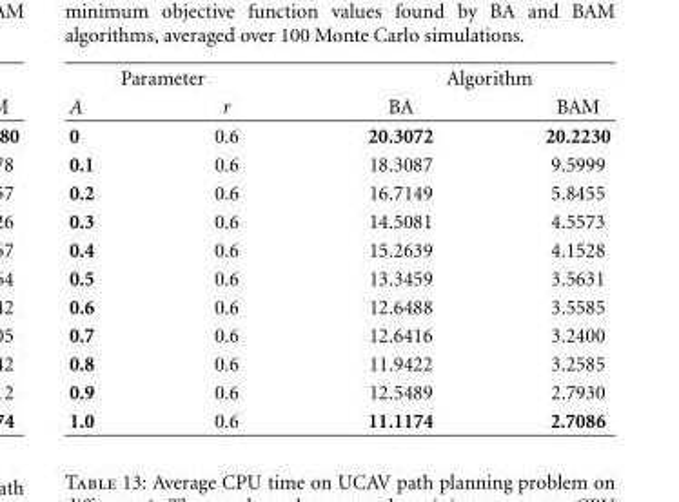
<table><thead><tr><td colspan="2">Parameter</td><td colspan="2">Algorithm</td></tr><tr><td>A</td><td>r</td><td>BA</td><td>BAM</td></tr></thead><tbody><tr><td>0</td><td>0.6</td><td>20.3072</td><td>20.2230</td></tr><tr><td>0.1</td><td>0.6</td><td>18.3087</td><td>9.5999</td></tr><tr><td>0.2</td><td>0.6</td><td>16.7149</td><td>5.8455</td></tr><tr><td>0.3</td><td>0.6</td><td>14.5081</td><td>4.5573</td></tr><tr><td>0.4</td><td>0.6</td><td>15.2639</td><td>4.1528</td></tr><tr><td>0.5</td><td>0.6</td><td>13.3459</td><td>3.5631</td></tr><tr><td>0.6</td><td>0.6</td><td>12.6488</td><td>3.5585</td></tr><tr><td>0.7</td><td>0.6</td><td>12.6416</td><td>3.2400</td></tr><tr><td>0.8</td><td>0.6</td><td>11.9422</td><td>3.2585</td></tr><tr><td>0.9</td><td>0.6</td><td>12.5489</td><td>2.7930</td></tr><tr><td>1.0</td><td>0.6</td><td>11.1174</td><td>2.7086</td></tr></tbody></table>